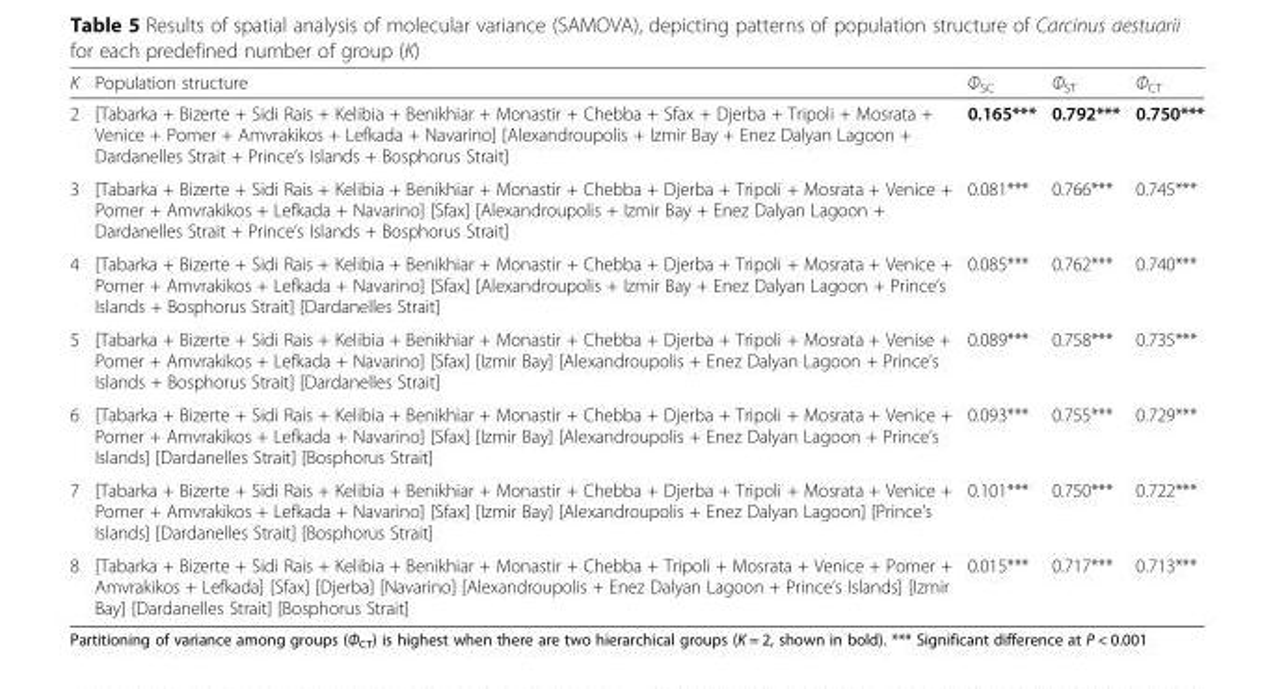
<table><thead><tr><td>K</td><td>Population structure</td><td>Φ<sub>SC</sub></td><td>Φ<sub>ST</sub></td><td>Φ<sub>CT</sub></td></tr></thead><tbody><tr><td>2</td><td>[Tabarka + Bizerte + Sidi Rais + Kelibia + Benikhiar + Monastir + Chebba + Sfax + Djerba + Tripoli + Mosrata + Venice + Pomer + Amvrakikos + Lefkada + Navarino] [Alexandroupolis + Izmir Bay + Enez Dalyan Lagoon + Dardanelles Strait + Prince’s Islands + Bosphorus Strait]</td><td>0.165***</td><td>0.792***</td><td>0.750***</td></tr><tr><td>3</td><td>[Tabarka + Bizerte + Sidi Rais + Kelibia + Benikhiar + Monastir + Chebba + Djerba + Tripoli + Mosrata + Venice + Pomer + Amvrakikos + Lefkada + Navarino] [Sfax] [Alexandroupolis + Izmir Bay + Enez Dalyan Lagoon + Dardanelles Strait + Prince’s Islands + Bosphorus Strait]</td><td>0.081***</td><td>0.766***</td><td>0.745***</td></tr><tr><td>4</td><td>[Tabarka + Bizerte + Sidi Rais + Kelibia + Benikhiar + Monastir + Chebba + Djerba + Tripoli + Mosrata + Venice + Pomer + Amvrakikos + Lefkada + Navarino] [Sfax] [Alexandroupolis + Izmir Bay + Enez Dalyan Lagoon + Prince’s Islands + Bosphorus Strait] [Dardanelles Strait]</td><td>0.085***</td><td>0.762***</td><td>0.740***</td></tr><tr><td>5</td><td>[Tabarka + Bizerte + Sidi Rais + Kelibia + Benikhiar + Monastir + Chebba + Djerba + Tripoli + Mosrata + Venise + Pomer + Amvrakikos + Lefkada + Navarino] [Sfax] [Izmir Bay] [Alexandroupolis + Enez Dalyan Lagoon + Prince’s Islands + Bosphorus Strait] [Dardanelles Strait]</td><td>0.089***</td><td>0.758***</td><td>0.735***</td></tr><tr><td>6</td><td>[Tabarka + Bizerte + Sidi Rais + Kelibia + Benikhiar + Monastir + Chebba + Djerba + Tripoli + Mosrata + Venice + Pomer + Amvrakikos + Lefkada + Navarino] [Sfax] [Izmir Bay] [Alexandroupolis + Enez Dalyan Lagoon + Prince’s Islands] [Dardanelles Strait] [Bosphorus Strait]</td><td>0.093***</td><td>0.755***</td><td>0.729***</td></tr><tr><td>7</td><td>[Tabarka + Bizerte + Sidi Rais + Kelibia + Benikhiar + Monastir + Chebba + Djerba + Tripoli + Mosrata + Venice + Pomer + Amvrakikos + Lefkada + Navarino] [Sfax] [Izmir Bay] [Alexandroupolis + Enez Dalyan Lagoon] [Prince’s Islands] [Dardanelles Strait] [Bosphorus Strait]</td><td>0.101***</td><td>0.750***</td><td>0.722***</td></tr><tr><td>8</td><td>[Tabarka + Bizerte + Sidi Rais + Kelibia + Benikhiar + Monastir + Chebba + Tripoli + Mosrata + Venice + Pomer + Amvrakikos + Lefkada] [Sfax] [Djerba] [Navarino] [Alexandroupolis + Enez Dalyan Lagoon + Prince’s Islands] [Izmir Bay] [Dardanelles Strait] [Bosphorus Strait]</td><td>0.015***</td><td>0.717***</td><td>0.713***</td></tr></tbody></table>